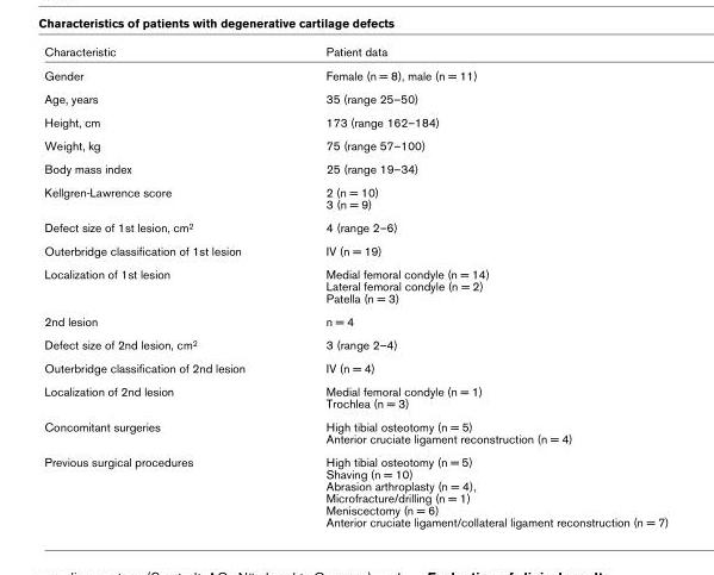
<table><thead><tr><td>Characteristic</td><td>Patient data</td></tr></thead><tbody><tr><td>Gender</td><td>Female (n = 8), male (n = 11)</td></tr><tr><td>Age, years</td><td>35 (range 25–50)</td></tr><tr><td>Height, cm</td><td>173 (range 162–184)</td></tr><tr><td>Weight, kg</td><td>75 (range 57–100)</td></tr><tr><td>Body mass index</td><td>25 (range 19–34)</td></tr><tr><td>Kellgren-Lawrence score</td><td>2 (n = 10) 3 (n = 9)</td></tr><tr><td>Defect size of 1st lesion, cm<sup>2</sup></td><td>4 (range 2–6)</td></tr><tr><td>Outerbridge classification of 1st lesion</td><td>IV (n = 19)</td></tr><tr><td>Localization of 1st lesion</td><td>Medial femoral condyle (n = 14) Lateral femoral condyle (n = 2) Patella (n = 3)</td></tr><tr><td>2nd lesion</td><td>n = 4</td></tr><tr><td>Defect size of 2nd lesion, cm<sup>2</sup></td><td>3 (range 2–4)</td></tr><tr><td>Outerbridge classification of 2nd lesion</td><td>IV (n = 4)</td></tr><tr><td>Localization of 2nd lesion</td><td>Medial femoral condyle (n = 1) Trochlea (n = 3)</td></tr><tr><td>Concomitant surgeries</td><td>High tibial osteotomy (n = 5) Anterior cruciate ligament reconstruction (n = 4)</td></tr><tr><td>Previous surgical procedures</td><td>High tibial osteotomy (n = 5) Shaving (n = 10) Abrasion arthroplasty (n = 4), Microfracture/drilling (n = 1) Meniscectomy (n = 6) Anterior cruciate ligament/collateral ligament reconstruction (n = 7)</td></tr></tbody></table>